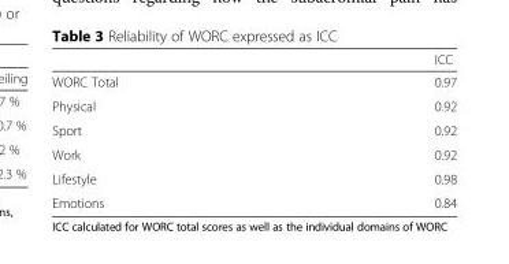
<table><thead><tr><td></td><td>ICC</td></tr></thead><tbody><tr><td>WORC Total</td><td>0.97</td></tr><tr><td>Physical</td><td>0.92</td></tr><tr><td>Sport</td><td>0.92</td></tr><tr><td>Work</td><td>0.92</td></tr><tr><td>Lifestyle</td><td>0.98</td></tr><tr><td>Emotions</td><td>0.84</td></tr></tbody></table>